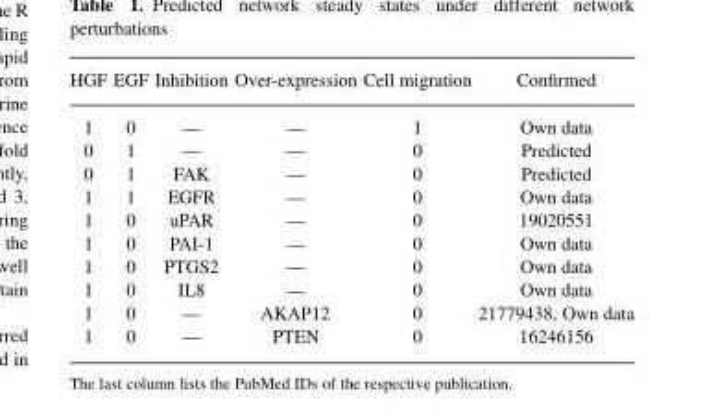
<table><thead><tr><td>HGF</td><td>EGF</td><td>Inhibition</td><td>Over-expression</td><td>Cell migration</td><td>Confirmed</td></tr></thead><tbody><tr><td>1</td><td>0</td><td>—</td><td>—</td><td>1</td><td>Own data</td></tr><tr><td>0</td><td>1</td><td>—</td><td>—</td><td>0</td><td>Predicted</td></tr><tr><td>0</td><td>1</td><td>FAK</td><td>—</td><td>0</td><td>Predicted</td></tr><tr><td>1</td><td>1</td><td>EGFR</td><td>—</td><td>0</td><td>Own data</td></tr><tr><td>1</td><td>0</td><td>uPAR</td><td>—</td><td>0</td><td>19020551</td></tr><tr><td>1</td><td>0</td><td>PAI-1</td><td>—</td><td>0</td><td>Own data</td></tr><tr><td>1</td><td>0</td><td>PTGS2</td><td>—</td><td>0</td><td>Own data</td></tr><tr><td>1</td><td>0</td><td>IL8</td><td>—</td><td>0</td><td>Own data</td></tr><tr><td>1</td><td>0</td><td>—</td><td>AKAP12</td><td>0</td><td>21779438, Own data</td></tr><tr><td>1</td><td>0</td><td>—</td><td>PTEN</td><td>0</td><td>16246156</td></tr></tbody></table>